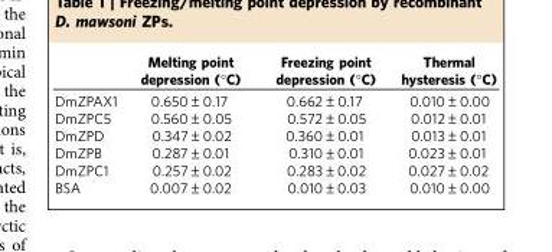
<table><thead><tr><td></td><td>Melting point depression (°C)</td><td>Freezing point depression (°C)</td><td>Thermal hysteresis (°C)</td></tr></thead><tbody><tr><td>DmZPAX1</td><td>0.650±0.17</td><td>0.662±0.17</td><td>0.010±0.00</td></tr><tr><td>DmZPC5</td><td>0.560±0.05</td><td>0.572±0.05</td><td>0.012±0.01</td></tr><tr><td>DmZPD</td><td>0.347±0.02</td><td>0.360±0.01</td><td>0.013±0.01</td></tr><tr><td>DmZPB</td><td>0.287±0.01</td><td>0.310±0.01</td><td>0.023±0.01</td></tr><tr><td>DmZPC1</td><td>0.257±0.02</td><td>0.283±0.02</td><td>0.027±0.02</td></tr><tr><td>BSA</td><td>0.007±0.02</td><td>0.010±0.03</td><td>0.010±0.00</td></tr></tbody></table>